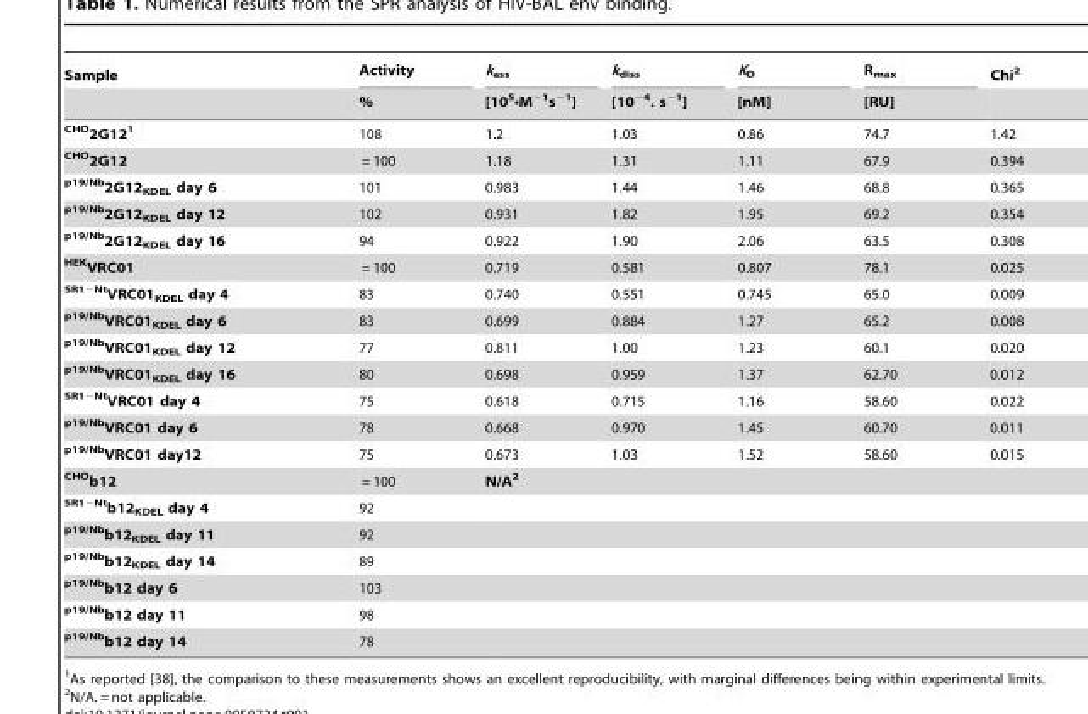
<table><thead><tr><td rowspan="2">Sample</td><td rowspan="2">Activity %</td><td rowspan="2">k<sub>ass</sub> [10<sup>5</sup>•M<sup>−1</sup>s<sup>−1</sup>]</td><td rowspan="2">k<sub>diss</sub> [10<sup>−4</sup>. s<sup>−1</sup>]</td><td rowspan="2">K<sub>D</sub> [nM]</td><td rowspan="2">R<sub>max</sub> [RU]</td><td rowspan="2">Chi<sup>2</sup></td></tr><tr></tr></thead><tbody><tr><td><sup>CHO</sup>2G121</td><td>108</td><td>1.2</td><td>1.03</td><td>0.86</td><td>74.7</td><td>1.42</td></tr><tr><td><sup>CHO</sup>2G12</td><td>= 100</td><td>1.18</td><td>1.31</td><td>1.11</td><td>67.9</td><td>0.394</td></tr><tr><td><sup>p19/Nb</sup>2G12<sub>KDEL</sub> day 6</td><td>101</td><td>0.983</td><td>1.44</td><td>1.46</td><td>68.8</td><td>0.365</td></tr><tr><td><sup>p19/Nb</sup>2G12<sub>KDEL</sub> day 12</td><td>102</td><td>0.931</td><td>1.82</td><td>1.95</td><td>69.2</td><td>0.354</td></tr><tr><td><sup>p19/Nb</sup>2G12<sub>KDEL</sub> day 16</td><td>94</td><td>0.922</td><td>1.90</td><td>2.06</td><td>63.5</td><td>0.308</td></tr><tr><td><sup>HEK</sup>VRC01</td><td>= 100</td><td>0.719</td><td>0.581</td><td>0.807</td><td>78.1</td><td>0.025</td></tr><tr><td><sup>SR1−Nt</sup>VRC01<sub>KDEL</sub> day 4</td><td>83</td><td>0.740</td><td>0.551</td><td>0.745</td><td>65.0</td><td>0.009</td></tr><tr><td><sup>p19/Nb</sup>VRC01<sub>KDEL</sub> day 6</td><td>83</td><td>0.699</td><td>0.884</td><td>1.27</td><td>65.2</td><td>0.008</td></tr><tr><td><sup>p19/Nb</sup>VRC01<sub>KDEL</sub> day 12</td><td>77</td><td>0.811</td><td>1.00</td><td>1.23</td><td>60.1</td><td>0.020</td></tr><tr><td><sup>p19/Nb</sup>VRC01<sub>KDEL</sub> day 16</td><td>80</td><td>0.698</td><td>0.959</td><td>1.37</td><td>62.70</td><td>0.012</td></tr><tr><td><sup>SR1−Nt</sup>VRC01 day 4</td><td>75</td><td>0.618</td><td>0.715</td><td>1.16</td><td>58.60</td><td>0.022</td></tr><tr><td><sup>p19/Nb</sup>VRC01 day 6</td><td>78</td><td>0.668</td><td>0.970</td><td>1.45</td><td>60.70</td><td>0.011</td></tr><tr><td><sup>p19/Nb</sup>VRC01 day12</td><td>75</td><td>0.673</td><td>1.03</td><td>1.52</td><td>58.60</td><td>0.015</td></tr><tr><td><sup>CHO</sup>b12</td><td>= 100</td><td colspan="5">N/A2</td></tr><tr><td><sup>SR1−Nt</sup>b12<sub>KDEL</sub> day 4</td><td>92</td><td colspan="5"></td></tr><tr><td><sup>p19/Nb</sup>b12<sub>KDEL</sub> day 11</td><td>92</td><td colspan="5"></td></tr><tr><td><sup>p19/Nb</sup>b12<sub>KDEL</sub> day 14</td><td>89</td><td colspan="5"></td></tr><tr><td><sup>p19/Nb</sup>b12 day 6</td><td>103</td><td colspan="5"></td></tr><tr><td><sup>p19/Nb</sup>b12 day 11</td><td>98</td><td colspan="5"></td></tr><tr><td><sup>p19/Nb</sup>b12 day 14</td><td>78</td><td colspan="5"></td></tr></tbody></table>